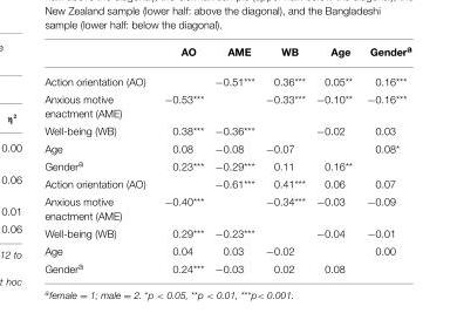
<table><thead><tr><td></td><td>AO</td><td>AME</td><td>WB</td><td>Age</td><td>Gender<sup>a</sup></td></tr></thead><tbody><tr><td>Action orientation (AO)</td><td></td><td>−0.51***</td><td>0.36***</td><td>0.05**</td><td>0.16***</td></tr><tr><td>Anxious motive enactment (AME)</td><td>−0.53***</td><td></td><td>−0.33***</td><td>−0.10**</td><td>−0.16***</td></tr><tr><td>Well-being (WB)</td><td>0.38***</td><td>−0.36***</td><td></td><td>−0.02</td><td>0.03</td></tr><tr><td>Age</td><td>0.08</td><td>−0.08</td><td>−0.07</td><td></td><td>0.08*</td></tr><tr><td>Gender<sup>a</sup></td><td>0.23***</td><td>−0.29***</td><td>0.11</td><td>0.16**</td><td></td></tr><tr><td>Action orientation (AO)</td><td></td><td>−0.61***</td><td>0.41***</td><td>0.06</td><td>0.07</td></tr><tr><td>Anxious motive enactment (AME)</td><td>−0.40***</td><td></td><td>−0.34***</td><td>−0.03</td><td>−0.09</td></tr><tr><td>Well-being (WB)</td><td>0.29***</td><td>−0.23***</td><td></td><td>−0.04</td><td>−0.01</td></tr><tr><td>Age</td><td>0.04</td><td>0.03</td><td>−0.02</td><td></td><td>0.00</td></tr><tr><td>Gender<sup>a</sup></td><td>0.24***</td><td>−0.03</td><td>0.02</td><td>0.08</td><td></td></tr></tbody></table>